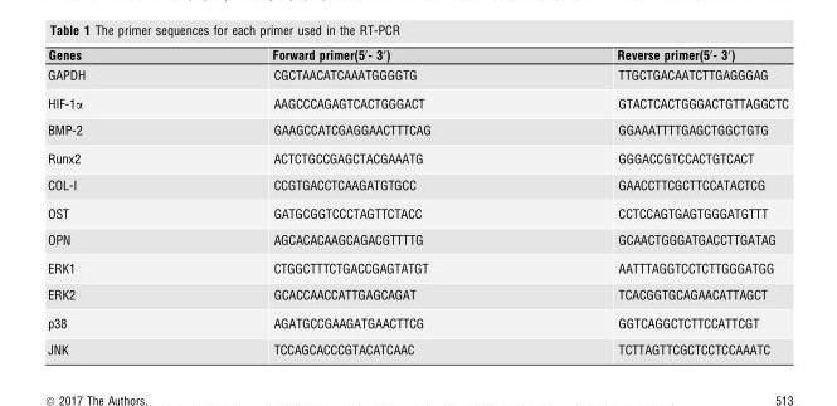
<table><thead><tr><td>Genes</td><td>Forward primer(5′- 3′)</td><td>Reverse primer(5′- 3′)</td></tr></thead><tbody><tr><td>GAPDH</td><td>CGCTAACATCAAATGGGGTG</td><td>TTGCTGACAATCTTGAGGGAG</td></tr><tr><td>HIF-1α</td><td>AAGCCCAGAGTCACTGGGACT</td><td>GTACTCACTGGGACTGTTAGGCTC</td></tr><tr><td>BMP-2</td><td>GAAGCCATCGAGGAACTTTCAG</td><td>GGAAATTTTGAGCTGGCTGTG</td></tr><tr><td>Runx2</td><td>ACTCTGCCGAGCTACGAAATG</td><td>GGGACCGTCCACTGTCACT</td></tr><tr><td>COL-I</td><td>CCGTGACCTCAAGATGTGCC</td><td>GAACCTTCGCTTCCATACTCG</td></tr><tr><td>OST</td><td>GATGCGGTCCCTAGTTCTACC</td><td>CCTCCAGTGAGTGGGATGTTT</td></tr><tr><td>OPN</td><td>AGCACACAAGCAGACGTTTTG</td><td>GCAACTGGGATGACCTTGATAG</td></tr><tr><td>ERK1</td><td>CTGGCTTTCTGACCGAGTATGT</td><td>AATTTAGGTCCTCTTGGGATGG</td></tr><tr><td>ERK2</td><td>GCACCAACCATTGAGCAGAT</td><td>TCACGGTGCAGAACATTAGCT</td></tr><tr><td>p38</td><td>AGATGCCGAAGATGAACTTCG</td><td>GGTCAGGCTCTTCCATTCGT</td></tr><tr><td>JNK</td><td>TCCAGCACCCGTACATCAAC</td><td>TCTTAGTTCGCTCCTCCAAATC</td></tr></tbody></table>